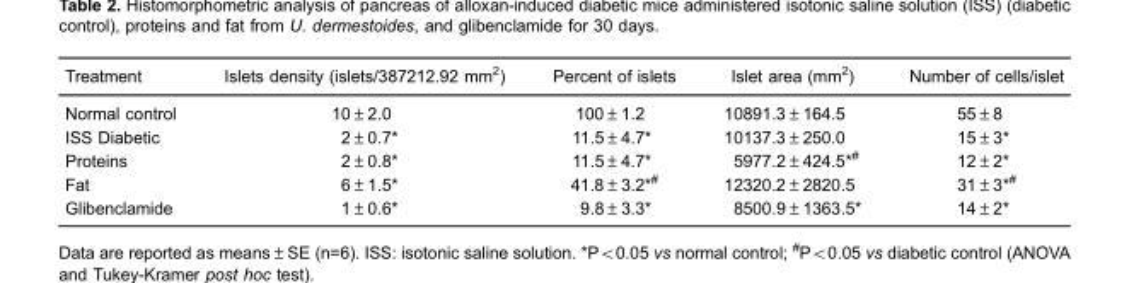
<table><thead><tr><td>Treatment</td><td>Islets density (islets/387212.92 mm<sup>2</sup>)</td><td>Percent of islets</td><td>Islet area (mm<sup>2</sup>)</td><td>Number of cells/islet</td></tr></thead><tbody><tr><td>Normal control</td><td>10±2.0</td><td>100±1.2</td><td>10891.3±164.5</td><td>55±8</td></tr><tr><td>ISS Diabetic</td><td>2±0.7*</td><td>11.5±4.7*</td><td>10137.3±250.0</td><td>15±3*</td></tr><tr><td>Proteins</td><td>2±0.8*</td><td>11.5±4.7*</td><td>5977.2±424.5*#</td><td>12±2*</td></tr><tr><td>Fat</td><td>6±1.5*</td><td>41.8±3.2*#</td><td>12320.2±2820.5</td><td>31±3*#</td></tr><tr><td>Glibenclamide</td><td>1±0.6*</td><td>9.8±3.3*</td><td>8500.9±1363.5*</td><td>14±2*</td></tr></tbody></table>